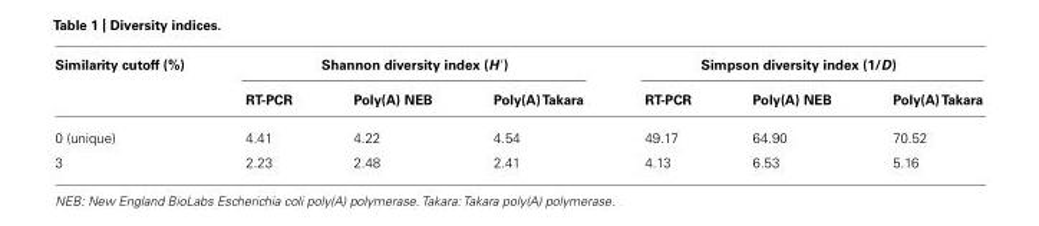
<table><thead><tr><td rowspan="2">Similarity cutoff (%)</td><td colspan="3">Shannon diversity index (H′)</td><td colspan="3">Simpson diversity index (1/D)</td></tr><tr><td>RT-PCR</td><td>Poly(A) NEB</td><td>Poly(A)Takara</td><td>RT-PCR</td><td>Poly(A) NEB</td><td>Poly(A)Takara</td></tr></thead><tbody><tr><td>0 (unique)</td><td>4.41</td><td>4.22</td><td>4.54</td><td>49.17</td><td>64.90</td><td>70.52</td></tr><tr><td>3</td><td>2.23</td><td>2.48</td><td>2.41</td><td>4.13</td><td>6.53</td><td>5.16</td></tr></tbody></table>